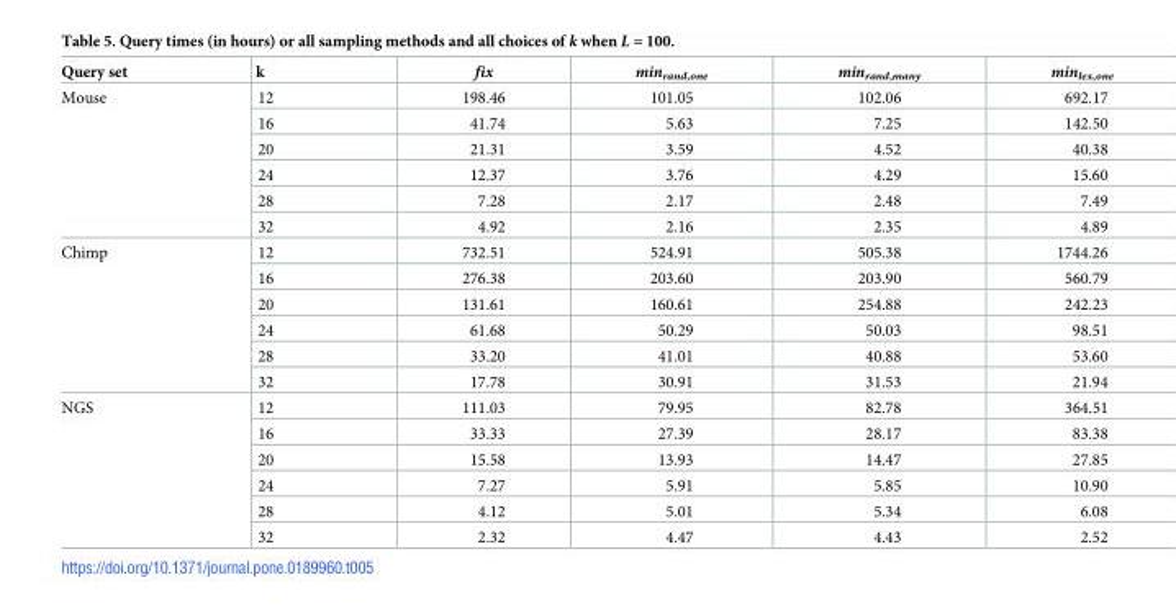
<table><thead><tr><td>Query set</td><td>k</td><td>fix</td><td>min<sub>rand,one</sub></td><td>min<sub>rand,many</sub></td><td>min<sub>lex,one</sub></td></tr></thead><tbody><tr><td rowspan="6">Mouse</td><td>12</td><td>198.46</td><td>101.05</td><td>102.06</td><td>692.17</td></tr><tr><td>16</td><td>41.74</td><td>5.63</td><td>7.25</td><td>142.50</td></tr><tr><td>20</td><td>21.31</td><td>3.59</td><td>4.52</td><td>40.38</td></tr><tr><td>24</td><td>12.37</td><td>3.76</td><td>4.29</td><td>15.60</td></tr><tr><td>28</td><td>7.28</td><td>2.17</td><td>2.48</td><td>7.49</td></tr><tr><td>32</td><td>4.92</td><td>2.16</td><td>2.35</td><td>4.89</td></tr><tr><td rowspan="6">Chimp</td><td>12</td><td>732.51</td><td>524.91</td><td>505.38</td><td>1744.26</td></tr><tr><td>16</td><td>276.38</td><td>203.60</td><td>203.90</td><td>560.79</td></tr><tr><td>20</td><td>131.61</td><td>160.61</td><td>254.88</td><td>242.23</td></tr><tr><td>24</td><td>61.68</td><td>50.29</td><td>50.03</td><td>98.51</td></tr><tr><td>28</td><td>33.20</td><td>41.01</td><td>40.88</td><td>53.60</td></tr><tr><td>32</td><td>17.78</td><td>30.91</td><td>31.53</td><td>21.94</td></tr><tr><td rowspan="6">NGS</td><td>12</td><td>111.03</td><td>79.95</td><td>82.78</td><td>364.51</td></tr><tr><td>16</td><td>33.33</td><td>27.39</td><td>28.17</td><td>83.38</td></tr><tr><td>20</td><td>15.58</td><td>13.93</td><td>14.47</td><td>27.85</td></tr><tr><td>24</td><td>7.27</td><td>5.91</td><td>5.85</td><td>10.90</td></tr><tr><td>28</td><td>4.12</td><td>5.01</td><td>5.34</td><td>6.08</td></tr><tr><td>32</td><td>2.32</td><td>4.47</td><td>4.43</td><td>2.52</td></tr></tbody></table>